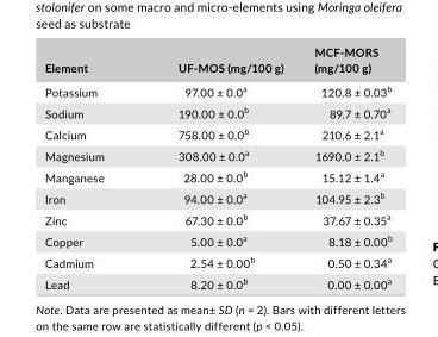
<table><thead><tr><td>Element</td><td>UF- MOS (mg/100 g)</td><td>MCF- MORS (mg/100 g)</td></tr></thead><tbody><tr><td>Potassium</td><td>97.00 ± 0.0<sup>a</sup></td><td>120.8 ± 0.03<sup>b</sup></td></tr><tr><td>Sodium</td><td>190.00 ± 0.0<sup>b</sup></td><td>89.7 ± 0.70<sup>a</sup></td></tr><tr><td>Calcium</td><td>758.00 ± 0.0<sup>b</sup></td><td>210.6 ± 2.1<sup>a</sup></td></tr><tr><td>Magnesium</td><td>308.00 ± 0.0<sup>a</sup></td><td>1690.0 ± 2.1<sup>b</sup></td></tr><tr><td>Manganese</td><td>28.00 ± 0.0<sup>b</sup></td><td>15.12 ± 1.4<sup>a</sup></td></tr><tr><td>Iron</td><td>94.00 ± 0.0<sup>a</sup></td><td>104.95 ± 2.3<sup>b</sup></td></tr><tr><td>Zinc</td><td>67.30 ± 0.0<sup>b</sup></td><td>37.67 ± 0.35<sup>a</sup></td></tr><tr><td>Copper</td><td>5.00 ± 0.0<sup>a</sup></td><td>8.18 ± 0.00<sup>b</sup></td></tr><tr><td>Cadmium</td><td>2.54 ± 0.00<sup>b</sup></td><td>0.50 ± 0.34<sup>a</sup></td></tr><tr><td>Lead</td><td>8.20 ± 0.0<sup>b</sup></td><td>0.00 ± 0.00<sup>a</sup></td></tr></tbody></table>